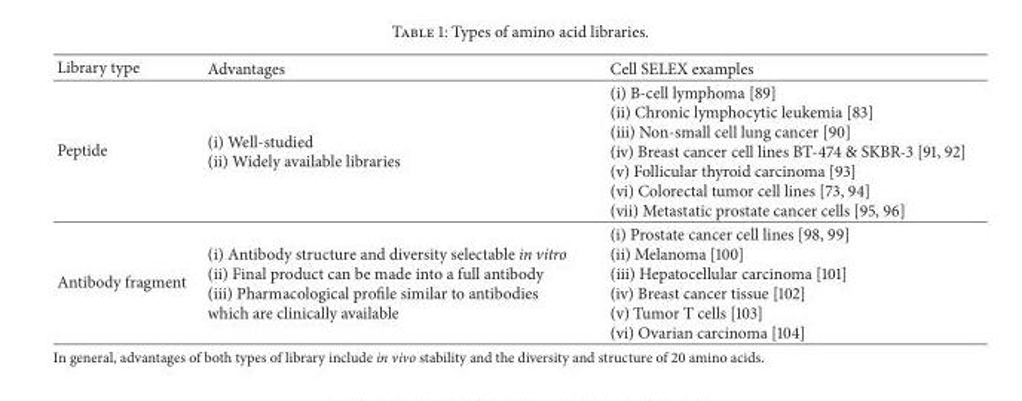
<table><thead><tr><td>Library type</td><td>Advantages</td><td>Cell SELEX examples</td></tr></thead><tbody><tr><td>Peptide</td><td>(i) Well-studied (ii) Widely available libraries</td><td>(i) B-cell lymphoma [89] (ii) Chronic lymphocytic leukemia [83] (iii) Non-small cell lung cancer [90] (iv) Breast cancer cell lines BT-474 &amp; SKBR-3 [91, 92] (v) Follicular thyroid carcinoma [93] (vi) Colorectal tumor cell lines [73, 94] (vii) Metastatic prostate cancer cells [95, 96]</td></tr><tr><td>Antibody fragment</td><td>(i) Antibody structure and diversity selectable in vitro (ii) Final product can be made into a full antibody (iii) Pharmacological profile similar to antibodies which are clinically available</td><td>(i) Prostate cancer cell lines [98, 99] (ii) Melanoma [100] (iii) Hepatocellular carcinoma [101] (iv) Breast cancer tissue [102] (v) Tumor T cells [103] (vi) Ovarian carcinoma [104]</td></tr></tbody></table>